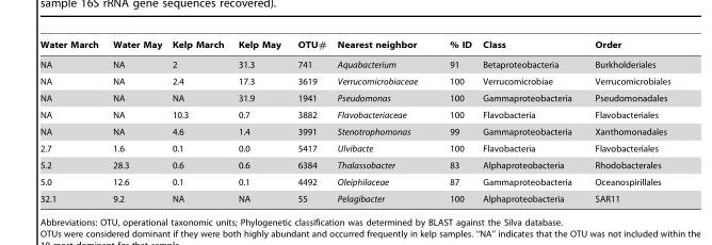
<table><thead><tr><td>Water March</td><td>Water May</td><td>Kelp March</td><td>Kelp May</td><td>OTU#</td><td>Nearest neighbor</td><td>% ID</td><td>Class</td><td>Order</td></tr></thead><tbody><tr><td>NA</td><td>NA</td><td>2</td><td>31.3</td><td>741</td><td>Aquabacterium</td><td>91</td><td>Betaproteobacteria</td><td>Burkholderiales</td></tr><tr><td>NA</td><td>NA</td><td>2.4</td><td>17.3</td><td>3619</td><td>Verrucomicrobiaceae</td><td>100</td><td>Verrucomicrobiae</td><td>Verrucomicrobiales</td></tr><tr><td>NA</td><td>NA</td><td>NA</td><td>31.9</td><td>1941</td><td>Pseudomonas</td><td>100</td><td>Gammaproteobacteria</td><td>Pseudomonadales</td></tr><tr><td>NA</td><td>NA</td><td>10.3</td><td>0.7</td><td>3882</td><td>Flavobacteriaceae</td><td>100</td><td>Flavobacteria</td><td>Flavobacteriales</td></tr><tr><td>NA</td><td>NA</td><td>4.6</td><td>1.4</td><td>3991</td><td>Stenotrophomonas</td><td>99</td><td>Gammaproteobacteria</td><td>Xanthomonadales</td></tr><tr><td>2.7</td><td>1.6</td><td>0.1</td><td>0.0</td><td>5417</td><td>Ulvibacte</td><td>100</td><td>Flavobacteria</td><td>Flavobacteriales</td></tr><tr><td>5.2</td><td>28.3</td><td>0.6</td><td>0.6</td><td>6384</td><td>Thalassobacter</td><td>83</td><td>Alphaproteobacteria</td><td>Rhodobacterales</td></tr><tr><td>5.0</td><td>12.6</td><td>0.1</td><td>0.1</td><td>4492</td><td>Oleiphilaceae</td><td>87</td><td>Gammaproteobacteria</td><td>Oceanospirillales</td></tr><tr><td>32.1</td><td>9.2</td><td>NA</td><td>NA</td><td>55</td><td>Pelagibacter</td><td>100</td><td>Alphaproteobacteria</td><td>SAR11</td></tr></tbody></table>